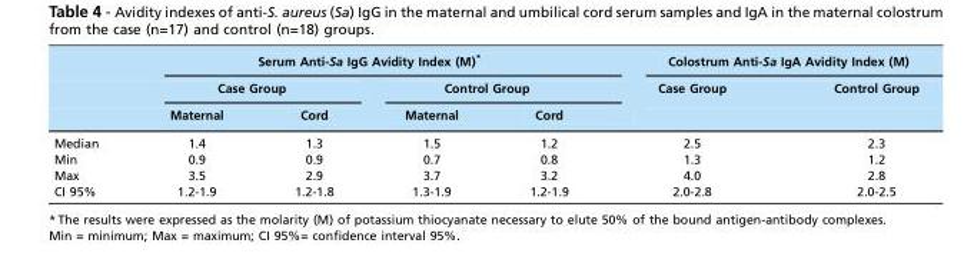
<table><thead><tr><td rowspan="3"></td><td colspan="4">Serum Anti-Sa IgG Avidity Index (M)*</td><td colspan="2">Colostrum Anti-Sa IgA Avidity Index (M)</td></tr><tr><td colspan="2">Case Group</td><td colspan="2">Control Group</td><td rowspan="2">Case Group</td><td rowspan="2">Control Group</td></tr><tr><td>Maternal</td><td>Cord</td><td>Maternal</td><td>Cord</td></tr></thead><tbody><tr><td>Median</td><td>1.4</td><td>1.3</td><td>1.5</td><td>1.2</td><td>2.5</td><td>2.3</td></tr><tr><td>Min</td><td>0.9</td><td>0.9</td><td>0.7</td><td>0.8</td><td>1.3</td><td>1.2</td></tr><tr><td>Max</td><td>3.5</td><td>2.9</td><td>3.7</td><td>3.2</td><td>4.0</td><td>2.8</td></tr><tr><td>CI 95%</td><td>1.2-1.9</td><td>1.2-1.8</td><td>1.3-1.9</td><td>1.2-1.9</td><td>2.0-2.8</td><td>2.0-2.5</td></tr></tbody></table>